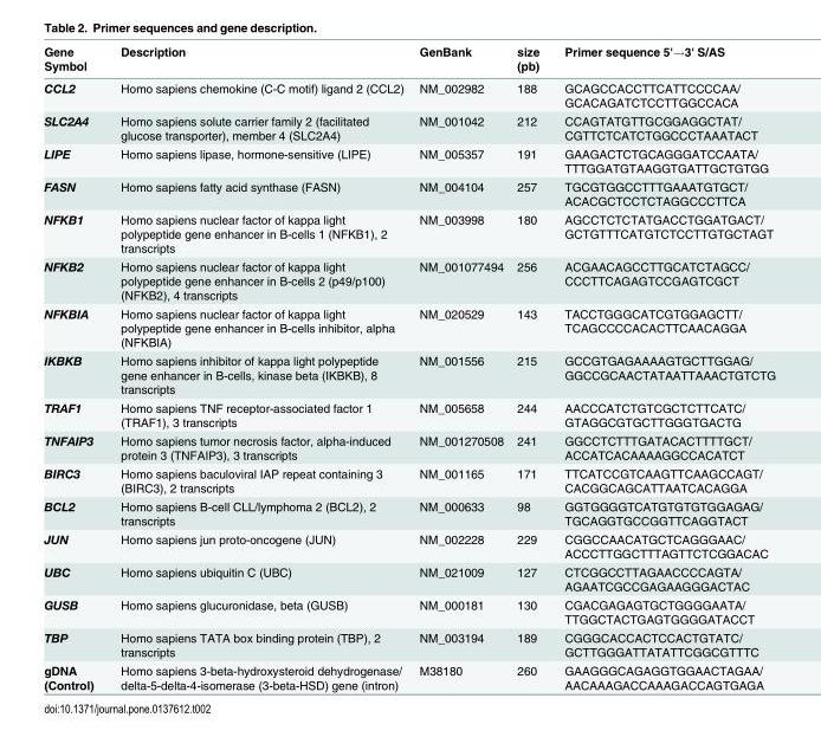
<table><thead><tr><td>Gene Symbol</td><td>Description</td><td>GenBank</td><td>size (pb)</td><td>Primer sequence 5&#x27;→3&#x27; S/AS</td></tr></thead><tbody><tr><td>CCL2</td><td>Homo sapiens chemokine (C-C motif) ligand 2 (CCL2)</td><td>NM_002982</td><td>188</td><td>GCAGCCACCTTCATTCCCCAA/ GCACAGATCTCCTTGGCCACA</td></tr><tr><td>SLC2A4</td><td>Homo sapiens solute carrier family 2 (facilitated glucose transporter), member 4 (SLC2A4)</td><td>NM_001042</td><td>212</td><td>CCAGTATGTTGCGGAGGCTAT/ CGTTCTCATCTGGCCCTAAATACT</td></tr><tr><td>LIPE</td><td>Homo sapiens lipase, hormone-sensitive (LIPE)</td><td>NM_005357</td><td>191</td><td>GAAGACTCTGCAGGGATCCAATA/ TTTGGATGTAAGGTGATTGCTGTGG</td></tr><tr><td>FASN</td><td>Homo sapiens fatty acid synthase (FASN)</td><td>NM_004104</td><td>257</td><td>TGCGTGGCCTTTGAAATGTGCT/ ACACGCTCCTCTAGGCCCTTCA</td></tr><tr><td>NFKB1</td><td>Homo sapiens nuclear factor of kappa light polypeptide gene enhancer in B-cells 1 (NFKB1), 2 transcripts</td><td>NM_003998</td><td>180</td><td>AGCCTCTCTATGACCTGGATGACT/ GCTGTTTCATGTCTCCTTGTGCTAGT</td></tr><tr><td>NFKB2</td><td>Homo sapiens nuclear factor of kappa light polypeptide gene enhancer in B-cells 2 (p49/p100) (NFKB2), 4 transcripts</td><td>NM_001077494</td><td>256</td><td>ACGAACAGCCTTGCATCTAGCC/ CCCTTCAGAGTCCGAGTCGCT</td></tr><tr><td>NFKBIA</td><td>Homo sapiens nuclear factor of kappa light polypeptide gene enhancer in B-cells inhibitor, alpha (NFKBIA)</td><td>NM_020529</td><td>143</td><td>TACCTGGGCATCGTGGAGCTT/ TCAGCCCCACACTTCAACAGGA</td></tr><tr><td>IKBKB</td><td>Homo sapiens inhibitor of kappa light polypeptide gene enhancer in B-cells, kinase beta (IKBKB), 8 transcripts</td><td>NM_001556</td><td>215</td><td>GCCGTGAGAAAAGTGCTTGGAG/ GGCCGCAACTATAATTAAACTGTCTG</td></tr><tr><td>TRAF1</td><td>Homo sapiens TNF receptor-associated factor 1 (TRAF1), 3 transcripts</td><td>NM_005658</td><td>244</td><td>AACCCATCTGTCGCTCTTCATC/ GTAGGCGTGCTTGGGTGACTG</td></tr><tr><td>TNFAIP3</td><td>Homo sapiens tumor necrosis factor, alpha-induced protein 3 (TNFAIP3), 3 transcripts</td><td>NM_001270508</td><td>241</td><td>GGCCTCTTTGATACACTTTTGCT/ ACCATCACAAAAGGCCACATCT</td></tr><tr><td>BIRC3</td><td>Homo sapiens baculoviral IAP repeat containing 3 (BIRC3), 2 transcripts</td><td>NM_001165</td><td>171</td><td>TTCATCCGTCAAGTTCAAGCCAGT/ CACGGCAGCATTAATCACAGGA</td></tr><tr><td>BCL2</td><td>Homo sapiens B-cell CLL/lymphoma 2 (BCL2), 2 transcripts</td><td>NM_000633</td><td>98</td><td>GGTGGGGTCATGTGTGTGGAGAG/ TGCAGGTGCCGGTTCAGGTACT</td></tr><tr><td>JUN</td><td>Homo sapiens jun proto-oncogene (JUN)</td><td>NM_002228</td><td>229</td><td>CGGCCAACATGCTCAGGGAAC/ ACCCTTGGCTTTAGTTCTCGGACAC</td></tr><tr><td>UBC</td><td>Homo sapiens ubiquitin C (UBC)</td><td>NM_021009</td><td>127</td><td>CTCGGCCTTAGAACCCCAGTA/ AGAATCGCCGAGAAGGGACTAC</td></tr><tr><td>GUSB</td><td>Homo sapiens glucuronidase, beta (GUSB)</td><td>NM_000181</td><td>130</td><td>CGACGAGAGTGCTGGGGAATA/ TTGGCTACTGAGTGGGGATACCT</td></tr><tr><td>TBP</td><td>Homo sapiens TATA box binding protein (TBP), 2 transcripts</td><td>NM_003194</td><td>189</td><td>CGGGCACCACTCCACTGTATC/ GCTTGGGATTATATTCGGCGTTTC</td></tr><tr><td>gDNA (Control)</td><td>Homo sapiens 3-beta-hydroxysteroid dehydrogenase/ delta-5-delta-4-isomerase (3-beta-HSD) gene (intron)</td><td>M38180</td><td>260</td><td>GAAGGGCAGAGGTGGAACTAGAA/ AACAAAGACCAAAGACCAGTGAGA</td></tr></tbody></table>